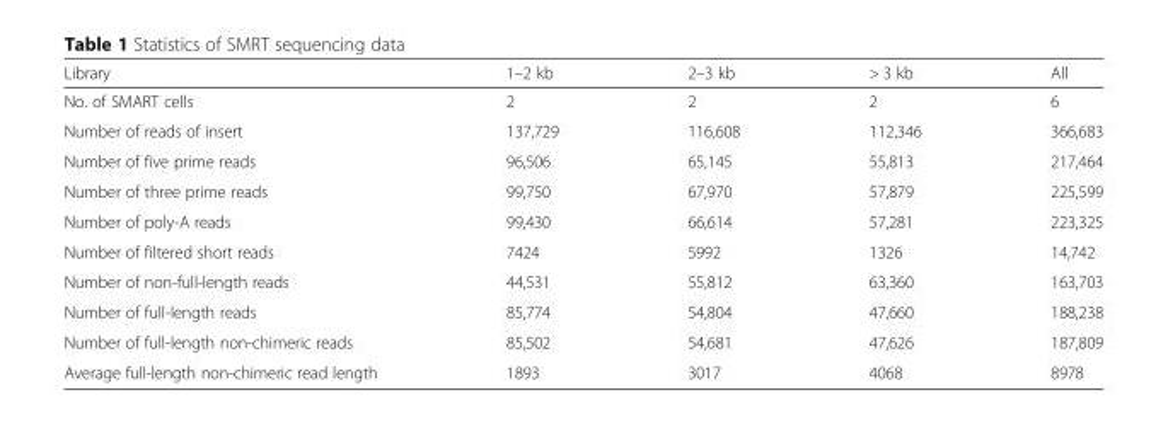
<table><thead><tr><td>Library</td><td>1–2 kb</td><td>2–3 kb</td><td>&gt; 3 kb</td><td>All</td></tr></thead><tbody><tr><td>No. of SMART cells</td><td>2</td><td>2</td><td>2</td><td>6</td></tr><tr><td>Number of reads of insert</td><td>137,729</td><td>116,608</td><td>112,346</td><td>366,683</td></tr><tr><td>Number of five prime reads</td><td>96,506</td><td>65,145</td><td>55,813</td><td>217,464</td></tr><tr><td>Number of three prime reads</td><td>99,750</td><td>67,970</td><td>57,879</td><td>225,599</td></tr><tr><td>Number of poly-A reads</td><td>99,430</td><td>66,614</td><td>57,281</td><td>223,325</td></tr><tr><td>Number of filtered short reads</td><td>7424</td><td>5992</td><td>1326</td><td>14,742</td></tr><tr><td>Number of non-full-length reads</td><td>44,531</td><td>55,812</td><td>63,360</td><td>163,703</td></tr><tr><td>Number of full-length reads</td><td>85,774</td><td>54,804</td><td>47,660</td><td>188,238</td></tr><tr><td>Number of full-length non-chimeric reads</td><td>85,502</td><td>54,681</td><td>47,626</td><td>187,809</td></tr><tr><td>Average full-length non-chimeric read length</td><td>1893</td><td>3017</td><td>4068</td><td>8978</td></tr></tbody></table>